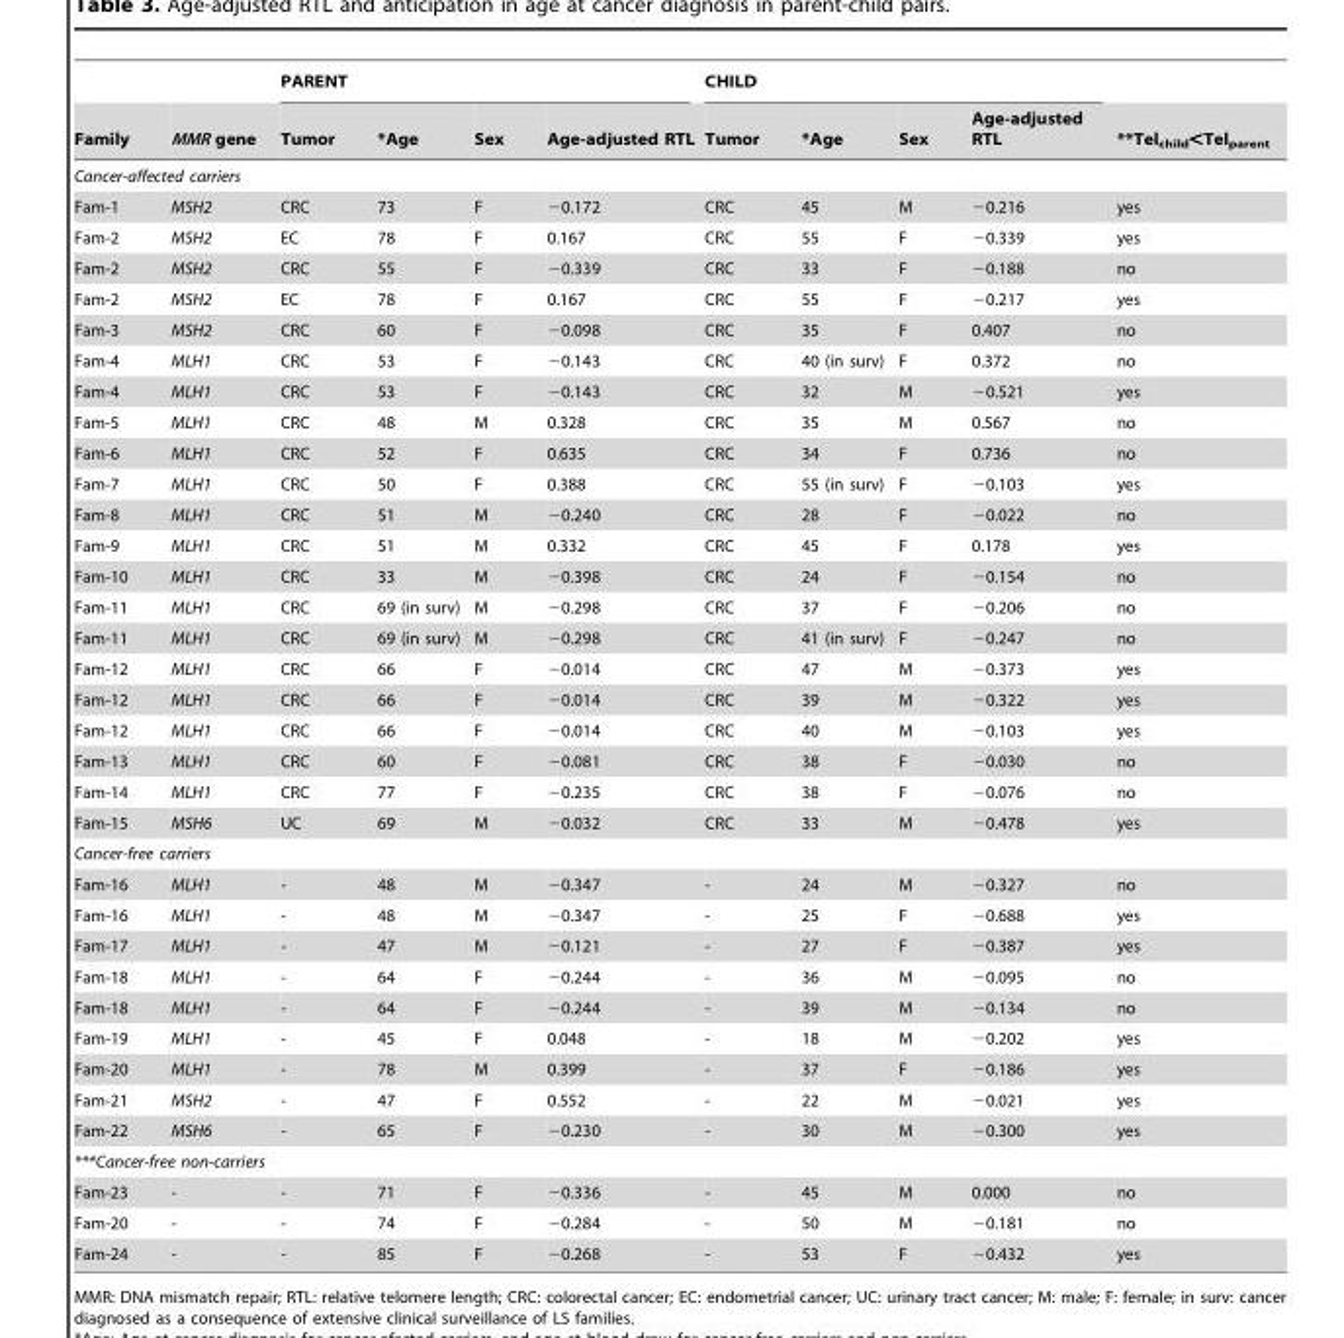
<table><thead><tr><td rowspan="2">Family</td><td rowspan="2">MMR gene</td><td colspan="4">PARENT</td><td colspan="4">CHILD</td><td rowspan="2">**Tel<sub>child</sub>&lt;Tel<sub>parent</sub></td></tr><tr><td>Tumor</td><td>*Age</td><td>Sex</td><td>Age-adjusted RTL</td><td>Tumor</td><td>*Age</td><td>Sex</td><td>Age-adjusted RTL</td></tr></thead><tbody><tr><td colspan="11">Cancer-affected carriers</td></tr><tr><td>Fam-1</td><td>MSH2</td><td>CRC</td><td>73</td><td>F</td><td>−0.172</td><td>CRC</td><td>45</td><td>M</td><td>−0.216</td><td>yes</td></tr><tr><td>Fam-2</td><td>MSH2</td><td>EC</td><td>78</td><td>F</td><td>0.167</td><td>CRC</td><td>55</td><td>F</td><td>−0.339</td><td>yes</td></tr><tr><td>Fam-2</td><td>MSH2</td><td>CRC</td><td>55</td><td>F</td><td>−0.339</td><td>CRC</td><td>33</td><td>F</td><td>−0.188</td><td>no</td></tr><tr><td>Fam-2</td><td>MSH2</td><td>EC</td><td>78</td><td>F</td><td>0.167</td><td>CRC</td><td>55</td><td>F</td><td>−0.217</td><td>yes</td></tr><tr><td>Fam-3</td><td>MSH2</td><td>CRC</td><td>60</td><td>F</td><td>−0.098</td><td>CRC</td><td>35</td><td>F</td><td>0.407</td><td>no</td></tr><tr><td>Fam-4</td><td>MLH1</td><td>CRC</td><td>53</td><td>F</td><td>−0.143</td><td>CRC</td><td>40 (in surv)</td><td>F</td><td>0.372</td><td>no</td></tr><tr><td>Fam-4</td><td>MLH1</td><td>CRC</td><td>53</td><td>F</td><td>−0.143</td><td>CRC</td><td>32</td><td>M</td><td>−0.521</td><td>yes</td></tr><tr><td>Fam-5</td><td>MLH1</td><td>CRC</td><td>48</td><td>M</td><td>0.328</td><td>CRC</td><td>35</td><td>M</td><td>0.567</td><td>no</td></tr><tr><td>Fam-6</td><td>MLH1</td><td>CRC</td><td>52</td><td>F</td><td>0.635</td><td>CRC</td><td>34</td><td>F</td><td>0.736</td><td>no</td></tr><tr><td>Fam-7</td><td>MLH1</td><td>CRC</td><td>50</td><td>F</td><td>0.388</td><td>CRC</td><td>55 (in surv)</td><td>F</td><td>−0.103</td><td>yes</td></tr><tr><td>Fam-8</td><td>MLH1</td><td>CRC</td><td>51</td><td>M</td><td>−0.240</td><td>CRC</td><td>28</td><td>F</td><td>−0.022</td><td>no</td></tr><tr><td>Fam-9</td><td>MLH1</td><td>CRC</td><td>51</td><td>M</td><td>0.332</td><td>CRC</td><td>45</td><td>F</td><td>0.178</td><td>yes</td></tr><tr><td>Fam-10</td><td>MLH1</td><td>CRC</td><td>33</td><td>M</td><td>−0.398</td><td>CRC</td><td>24</td><td>F</td><td>−0.154</td><td>no</td></tr><tr><td>Fam-11</td><td>MLH1</td><td>CRC</td><td>69 (in surv)</td><td>M</td><td>−0.298</td><td>CRC</td><td>37</td><td>F</td><td>−0.206</td><td>no</td></tr><tr><td>Fam-11</td><td>MLH1</td><td>CRC</td><td>69 (in surv)</td><td>M</td><td>−0.298</td><td>CRC</td><td>41 (in surv)</td><td>F</td><td>−0.247</td><td>no</td></tr><tr><td>Fam-12</td><td>MLH1</td><td>CRC</td><td>66</td><td>F</td><td>−0.014</td><td>CRC</td><td>47</td><td>M</td><td>−0.373</td><td>yes</td></tr><tr><td>Fam-12</td><td>MLH1</td><td>CRC</td><td>66</td><td>F</td><td>−0.014</td><td>CRC</td><td>39</td><td>M</td><td>−0.322</td><td>yes</td></tr><tr><td>Fam-12</td><td>MLH1</td><td>CRC</td><td>66</td><td>F</td><td>−0.014</td><td>CRC</td><td>40</td><td>M</td><td>−0.103</td><td>yes</td></tr><tr><td>Fam-13</td><td>MLH1</td><td>CRC</td><td>60</td><td>F</td><td>−0.081</td><td>CRC</td><td>38</td><td>F</td><td>−0.030</td><td>no</td></tr><tr><td>Fam-14</td><td>MLH1</td><td>CRC</td><td>77</td><td>F</td><td>−0.235</td><td>CRC</td><td>38</td><td>F</td><td>−0.076</td><td>no</td></tr><tr><td>Fam-15</td><td>MSH6</td><td>UC</td><td>69</td><td>M</td><td>−0.032</td><td>CRC</td><td>33</td><td>M</td><td>−0.478</td><td>yes</td></tr><tr><td colspan="11">Cancer-free carriers</td></tr><tr><td>Fam-16</td><td>MLH1</td><td>-</td><td>48</td><td>M</td><td>−0.347</td><td>-</td><td>24</td><td>M</td><td>−0.327</td><td>no</td></tr><tr><td>Fam-16</td><td>MLH1</td><td>-</td><td>48</td><td>M</td><td>−0.347</td><td>-</td><td>25</td><td>F</td><td>−0.688</td><td>yes</td></tr><tr><td>Fam-17</td><td>MLH1</td><td>-</td><td>47</td><td>M</td><td>−0.121</td><td>-</td><td>27</td><td>F</td><td>−0.387</td><td>yes</td></tr><tr><td>Fam-18</td><td>MLH1</td><td>-</td><td>64</td><td>F</td><td>−0.244</td><td>-</td><td>36</td><td>M</td><td>−0.095</td><td>no</td></tr><tr><td>Fam-18</td><td>MLH1</td><td>-</td><td>64</td><td>F</td><td>−0.244</td><td>-</td><td>39</td><td>M</td><td>−0.134</td><td>no</td></tr><tr><td>Fam-19</td><td>MLH1</td><td>-</td><td>45</td><td>F</td><td>0.048</td><td>-</td><td>18</td><td>M</td><td>−0.202</td><td>yes</td></tr><tr><td>Fam-20</td><td>MLH1</td><td>-</td><td>78</td><td>M</td><td>0.399</td><td>-</td><td>37</td><td>F</td><td>−0.186</td><td>yes</td></tr><tr><td>Fam-21</td><td>MSH2</td><td>-</td><td>47</td><td>F</td><td>0.552</td><td>-</td><td>22</td><td>M</td><td>−0.021</td><td>yes</td></tr><tr><td>Fam-22</td><td>MSH6</td><td>-</td><td>65</td><td>F</td><td>−0.230</td><td>-</td><td>30</td><td>M</td><td>−0.300</td><td>yes</td></tr><tr><td colspan="11">***Cancer-free non-carriers</td></tr><tr><td>Fam-23</td><td>-</td><td>-</td><td>71</td><td>F</td><td>−0.336</td><td>-</td><td>45</td><td>M</td><td>0.000</td><td>no</td></tr><tr><td>Fam-20</td><td>-</td><td>-</td><td>74</td><td>F</td><td>−0.284</td><td>-</td><td>50</td><td>M</td><td>−0.181</td><td>no</td></tr><tr><td>Fam-24</td><td>-</td><td>-</td><td>85</td><td>F</td><td>−0.268</td><td>-</td><td>53</td><td>F</td><td>−0.432</td><td>yes</td></tr></tbody></table>